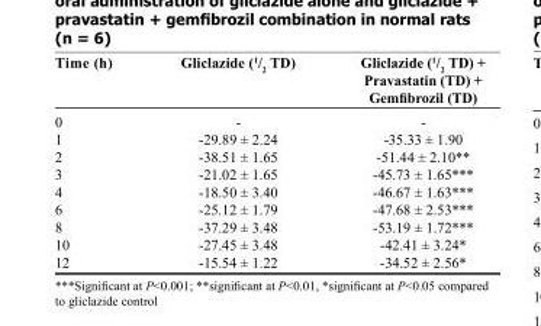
<table><thead><tr><td>Time (h)</td><td>Gliclazide (1/2 TD)</td><td>Gliclazide (1/2 TD) + Pravastatin (TD) + Gemfibrozil (TD)</td></tr></thead><tbody><tr><td>0</td><td>-</td><td>-</td></tr><tr><td>1</td><td>-29.89 ± 2.24</td><td>-35.33 ± 1.90</td></tr><tr><td>2</td><td>-38.51 ± 1.65</td><td>-51.44 ± 2.10**</td></tr><tr><td>3</td><td>-21.02 ± 1.65</td><td>-45.73 ± 1.65***</td></tr><tr><td>4</td><td>-18.50 ± 3.40</td><td>-46.67 ± 1.63***</td></tr><tr><td>6</td><td>-25.12 ± 1.79</td><td>-47.68 ± 2.53***</td></tr><tr><td>8</td><td>-37.29 ± 3.48</td><td>-53.19 ± 1.72***</td></tr><tr><td>10</td><td>-27.45 ± 3.48</td><td>-42.41 ± 3.24*</td></tr><tr><td>12</td><td>-15.54 ± 1.22</td><td>-34.52 ± 2.56*</td></tr></tbody></table>